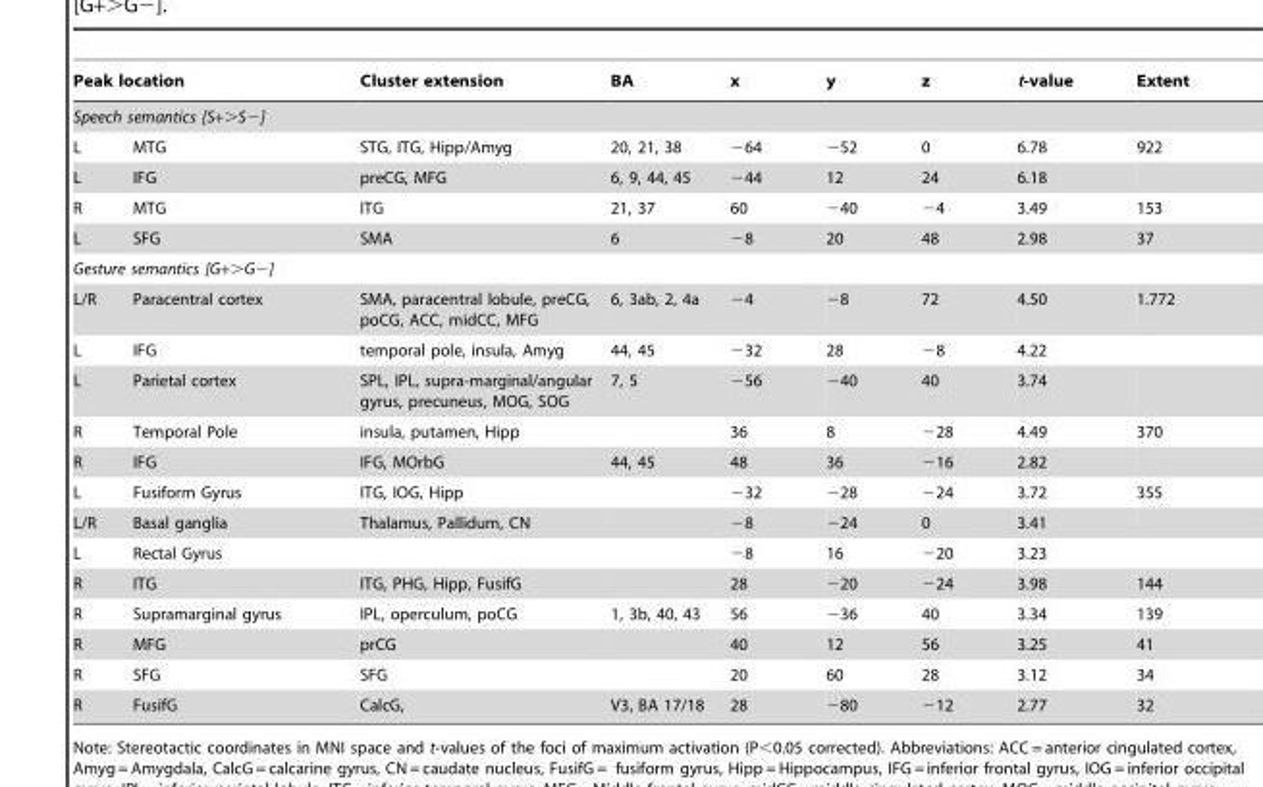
<table><thead><tr><td colspan="2">Peak location</td><td>Cluster extension</td><td>BA</td><td>x</td><td>y</td><td>z</td><td>t-value</td><td>Extent</td></tr><tr><td colspan="9">Speech semantics [S+&gt;S−]</td></tr><tr><td>L</td><td>MTG</td><td>STG, ITG, Hipp/Amyg</td><td>20, 21, 38</td><td>−64</td><td>−52</td><td>0</td><td>6.78</td><td>922</td></tr></thead><tbody><tr><td>L</td><td>IFG</td><td>preCG, MFG</td><td>6, 9, 44, 45</td><td>−44</td><td>12</td><td>24</td><td>6.18</td><td></td></tr><tr><td>R</td><td>MTG</td><td>ITG</td><td>21, 37</td><td>60</td><td>−40</td><td>−4</td><td>3.49</td><td>153</td></tr><tr><td>L</td><td>SFG</td><td>SMA</td><td>6</td><td>−8</td><td>20</td><td>48</td><td>2.98</td><td>37</td></tr><tr><td colspan="9">Gesture semantics [G+&gt;G−]</td></tr><tr><td>L/R</td><td>Paracentral cortex</td><td>SMA, paracentral lobule, preCG, poCG, ACC, midCC, MFG</td><td>6, 3ab, 2, 4a</td><td>−4</td><td>−8</td><td>72</td><td>4.50</td><td>1.772</td></tr><tr><td>L</td><td>IFG</td><td>temporal pole, insula, Amyg</td><td>44, 45</td><td>−32</td><td>28</td><td>−8</td><td>4.22</td><td></td></tr><tr><td>L</td><td>Parietal cortex</td><td>SPL, IPL, supra-marginal/angular gyrus, precuneus, MOG, SOG</td><td>7, 5</td><td>−56</td><td>−40</td><td>40</td><td>3.74</td><td></td></tr><tr><td>R</td><td>Temporal Pole</td><td>insula, putamen, Hipp</td><td></td><td>36</td><td>8</td><td>−28</td><td>4.49</td><td>370</td></tr><tr><td>R</td><td>IFG</td><td>IFG, MOrbG</td><td>44, 45</td><td>48</td><td>36</td><td>−16</td><td>2.82</td><td></td></tr><tr><td>L</td><td>Fusiform Gyrus</td><td>ITG, IOG, Hipp</td><td></td><td>−32</td><td>−28</td><td>−24</td><td>3.72</td><td>355</td></tr><tr><td>L/R</td><td>Basal ganglia</td><td>Thalamus, Pallidum, CN</td><td></td><td>−8</td><td>−24</td><td>0</td><td>3.41</td><td></td></tr><tr><td>L</td><td>Rectal Gyrus</td><td></td><td></td><td>−8</td><td>16</td><td>−20</td><td>3.23</td><td></td></tr><tr><td>R</td><td>ITG</td><td>ITG, PHG, Hipp, FusifG</td><td></td><td>28</td><td>−20</td><td>−24</td><td>3.98</td><td>144</td></tr><tr><td>R</td><td>Supramarginal gyrus</td><td>IPL, operculum, poCG</td><td>1, 3b, 40, 43</td><td>56</td><td>−36</td><td>40</td><td>3.34</td><td>139</td></tr><tr><td>R</td><td>MFG</td><td>prCG</td><td></td><td>40</td><td>12</td><td>56</td><td>3.25</td><td>41</td></tr><tr><td>R</td><td>SFG</td><td>SFG</td><td></td><td>20</td><td>60</td><td>28</td><td>3.12</td><td>34</td></tr><tr><td>R</td><td>FusifG</td><td>CalcG,</td><td>V3, BA 17/18</td><td>28</td><td>−80</td><td>−12</td><td>2.77</td><td>32</td></tr></tbody></table>